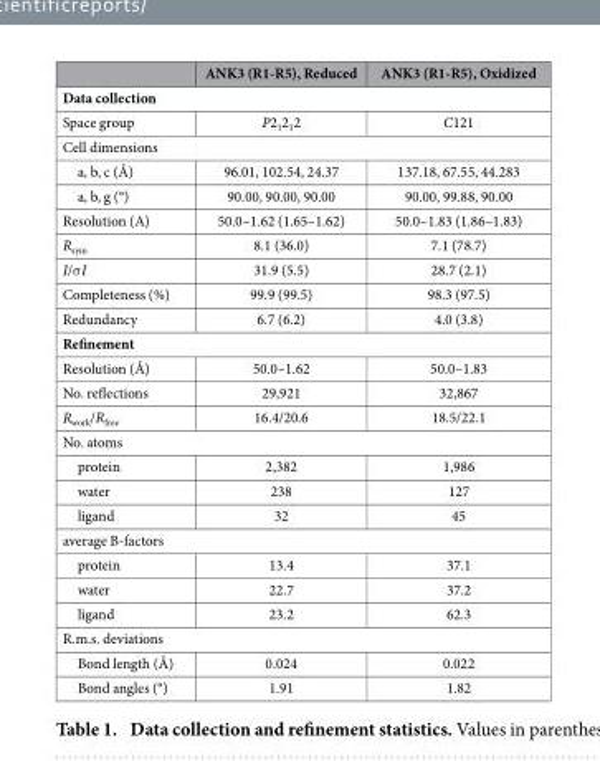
<table><thead><tr><td></td><td>ANK3 (R1-R5), Reduced</td><td>ANK3 (R1-R5), Oxidized</td></tr></thead><tbody><tr><td colspan="3">Data collection</td></tr><tr><td>Space group</td><td>P2<sub>1</sub>2<sub>1</sub>2</td><td>C121</td></tr><tr><td colspan="3">Cell dimensions</td></tr><tr><td>a, b, c (Å)</td><td>96.01, 102.54, 24.37</td><td>137.18, 67.55, 44.283</td></tr><tr><td>a, b, g (°)</td><td>90.00, 90.00, 90.00</td><td>90.00, 99.88, 90.00</td></tr><tr><td>Resolution (A)</td><td>50.0–1.62 (1.65–1.62)</td><td>50.0–1.83 (1.86–1.83)</td></tr><tr><td>R<sub>sym</sub></td><td>8.1 (36.0)</td><td>7.1 (78.7)</td></tr><tr><td>I/σ I</td><td>31.9 (5.5)</td><td>28.7 (2.1)</td></tr><tr><td>Completeness (%)</td><td>99.9 (99.5)</td><td>98.3 (97.5)</td></tr><tr><td>Redundancy</td><td>6.7 (6.2)</td><td>4.0 (3.8)</td></tr><tr><td colspan="3">Refinement</td></tr><tr><td>Resolution (Å)</td><td>50.0–1.62</td><td>50.0–1.83</td></tr><tr><td>No. reflections</td><td>29,921</td><td>32,867</td></tr><tr><td>R<sub>work</sub>/R<sub>free</sub></td><td>16.4/20.6</td><td>18.5/22.1</td></tr><tr><td colspan="3">No. atoms</td></tr><tr><td>protein</td><td>2,382</td><td>1,986</td></tr><tr><td>water</td><td>238</td><td>127</td></tr><tr><td>ligand</td><td>32</td><td>45</td></tr><tr><td colspan="3">average B-factors</td></tr><tr><td>protein</td><td>13.4</td><td>37.1</td></tr><tr><td>water</td><td>22.7</td><td>37.2</td></tr><tr><td>ligand</td><td>23.2</td><td>62.3</td></tr><tr><td colspan="3">R.m.s. deviations</td></tr><tr><td>Bond length (Å)</td><td>0.024</td><td>0.022</td></tr><tr><td>Bond angles (°)</td><td>1.91</td><td>1.82</td></tr></tbody></table>